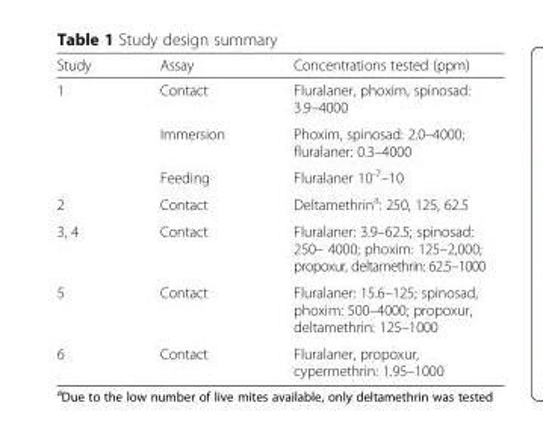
<table><thead><tr><td>Study</td><td>Assay</td><td>Concentrations tested (ppm)</td></tr></thead><tbody><tr><td rowspan="3">1</td><td>Contact</td><td>Fluralaner, phoxim, spinosad: 3.9–4000</td></tr><tr><td>Immersion</td><td>Phoxim, spinosad: 2.0–4000; fluralaner: 0.3–4000</td></tr><tr><td>Feeding</td><td>Fluralaner 10<sup>-7</sup>–10</td></tr><tr><td>2</td><td>Contact</td><td>Deltamethrin<sup>a</sup>: 250, 125, 62.5</td></tr><tr><td>3, 4</td><td>Contact</td><td>Fluralaner: 3.9–62.5; spinosad: 250– 4000; phoxim: 125–2,000; propoxur, deltamethrin: 62.5–1000</td></tr><tr><td>5</td><td>Contact</td><td>Fluralaner: 15.6–125; spinosad, phoxim: 500–4000; propoxur, deltamethrin: 125–1000</td></tr><tr><td>6</td><td>Contact</td><td>Fluralaner, propoxur, cypermethrin: 1.95–1000</td></tr></tbody></table>